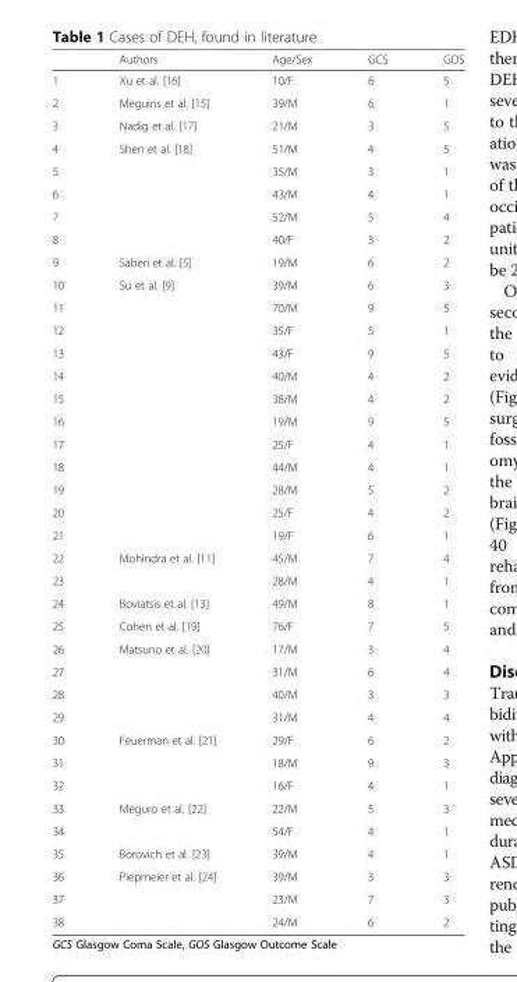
<table><thead><tr><td></td><td>Authors</td><td>Age/Sex</td><td>GCS</td><td>GOS</td></tr></thead><tbody><tr><td>1</td><td>Xu et al. [16]</td><td>10/F</td><td>6</td><td>5</td></tr><tr><td>2</td><td>Meguins et al. [15]</td><td>39/M</td><td>6</td><td>1</td></tr><tr><td>3</td><td>Nadig et al. [17]</td><td>21/M</td><td>3</td><td>5</td></tr><tr><td>4</td><td>Shen et al. [18]</td><td>51/M</td><td>4</td><td>5</td></tr><tr><td>5</td><td></td><td>35/M</td><td>3</td><td>1</td></tr><tr><td>6</td><td></td><td>43/M</td><td>4</td><td>1</td></tr><tr><td>7</td><td></td><td>52/M</td><td>5</td><td>4</td></tr><tr><td>8</td><td></td><td>40/F</td><td>3</td><td>2</td></tr><tr><td>9</td><td>Saberi et al. [5]</td><td>19/M</td><td>6</td><td>2</td></tr><tr><td>10</td><td>Su et al. [9]</td><td>39/M</td><td>6</td><td>3</td></tr><tr><td>11</td><td></td><td>70/M</td><td>9</td><td>5</td></tr><tr><td>12</td><td></td><td>35/F</td><td>5</td><td>1</td></tr><tr><td>13</td><td></td><td>43/F</td><td>9</td><td>5</td></tr><tr><td>14</td><td></td><td>40/M</td><td>4</td><td>2</td></tr><tr><td>15</td><td></td><td>38/M</td><td>4</td><td>2</td></tr><tr><td>16</td><td></td><td>19/M</td><td>9</td><td>5</td></tr><tr><td>17</td><td></td><td>25/F</td><td>4</td><td>1</td></tr><tr><td>18</td><td></td><td>44/M</td><td>4</td><td>1</td></tr><tr><td>19</td><td></td><td>28/M</td><td>5</td><td>2</td></tr><tr><td>20</td><td></td><td>25/F</td><td>4</td><td>2</td></tr><tr><td>21</td><td></td><td>19/F</td><td>6</td><td>1</td></tr><tr><td>22</td><td>Mohindra et al. [11]</td><td>45/M</td><td>7</td><td>4</td></tr><tr><td>23</td><td></td><td>28/M</td><td>4</td><td>1</td></tr><tr><td>24</td><td>Boviatsis et al. [13]</td><td>49/M</td><td>8</td><td>1</td></tr><tr><td>25</td><td>Cohen et al. [19]</td><td>76/F</td><td>7</td><td>5</td></tr><tr><td>26</td><td>Matsuno et al. [20]</td><td>17/M</td><td>3</td><td>4</td></tr><tr><td>27</td><td></td><td>31/M</td><td>6</td><td>4</td></tr><tr><td>28</td><td></td><td>40/M</td><td>3</td><td>3</td></tr><tr><td>29</td><td></td><td>31/M</td><td>4</td><td>4</td></tr><tr><td>30</td><td>Feuerman et al. [21]</td><td>29/F</td><td>6</td><td>2</td></tr><tr><td>31</td><td></td><td>18/M</td><td>9</td><td>3</td></tr><tr><td>32</td><td></td><td>16/F</td><td>4</td><td>1</td></tr><tr><td>33</td><td>Meguro et al. [22]</td><td>22/M</td><td>5</td><td>3</td></tr><tr><td>34</td><td></td><td>54/F</td><td>4</td><td>1</td></tr><tr><td>35</td><td>Borovich et al. [23]</td><td>39/M</td><td>4</td><td>1</td></tr><tr><td>36</td><td>Piepmeier et al. [24]</td><td>39/M</td><td>3</td><td>3</td></tr><tr><td>37</td><td></td><td>23/M</td><td>7</td><td>3</td></tr><tr><td>38</td><td></td><td>24/M</td><td>6</td><td>2</td></tr></tbody></table>